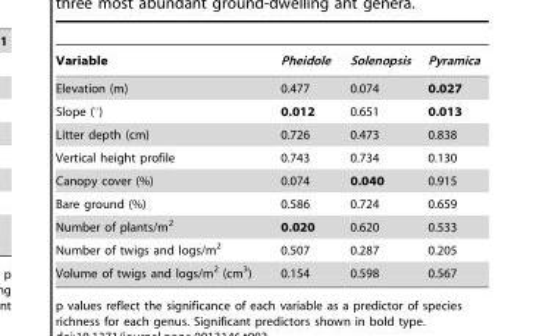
<table><thead><tr><td>Variable</td><td>Pheidole</td><td>Solenopsis</td><td>Pyramica</td></tr></thead><tbody><tr><td>Elevation (m)</td><td>0.477</td><td>0.074</td><td>0.027</td></tr><tr><td>Slope (°)</td><td>0.012</td><td>0.651</td><td>0.013</td></tr><tr><td>Litter depth (cm)</td><td>0.726</td><td>0.473</td><td>0.838</td></tr><tr><td>Vertical height profile</td><td>0.743</td><td>0.734</td><td>0.130</td></tr><tr><td>Canopy cover (%)</td><td>0.074</td><td>0.040</td><td>0.915</td></tr><tr><td>Bare ground (%)</td><td>0.586</td><td>0.724</td><td>0.659</td></tr><tr><td>Number of plants/m<sup>2</sup></td><td>0.020</td><td>0.620</td><td>0.533</td></tr><tr><td>Number of twigs and logs/m<sup>2</sup></td><td>0.507</td><td>0.287</td><td>0.205</td></tr><tr><td>Volume of twigs and logs/m<sup>2</sup> (cm<sup>3</sup>)</td><td>0.154</td><td>0.598</td><td>0.567</td></tr></tbody></table>